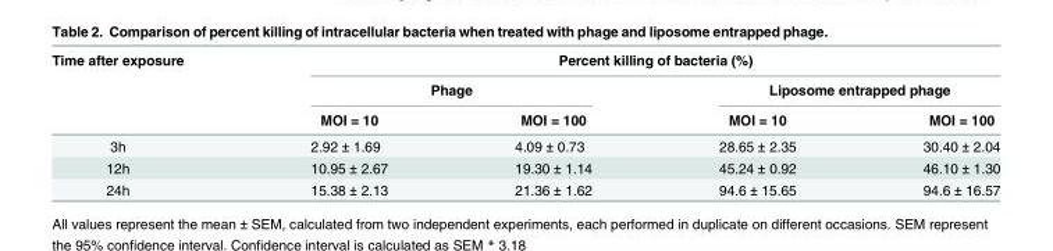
<table><thead><tr><td rowspan="3">Time after exposure</td><td colspan="4">Percent killing of bacteria (%)</td></tr><tr><td colspan="2">Phage</td><td colspan="2">Liposome entrapped phage</td></tr><tr><td>MOI = 10</td><td>MOI = 100</td><td>MOI = 10</td><td>MOI = 100</td></tr></thead><tbody><tr><td>3h</td><td>2.92 ± 1.69</td><td>4.09 ± 0.73</td><td>28.65 ± 2.35</td><td>30.40 ± 2.04</td></tr><tr><td>12h</td><td>10.95 ± 2.67</td><td>19.30 ± 1.14</td><td>45.24 ± 0.92</td><td>46.10 ± 1.30</td></tr><tr><td>24h</td><td>15.38 ± 2.13</td><td>21.36 ± 1.62</td><td>94.6 ± 15.65</td><td>94.6 ± 16.57</td></tr></tbody></table>